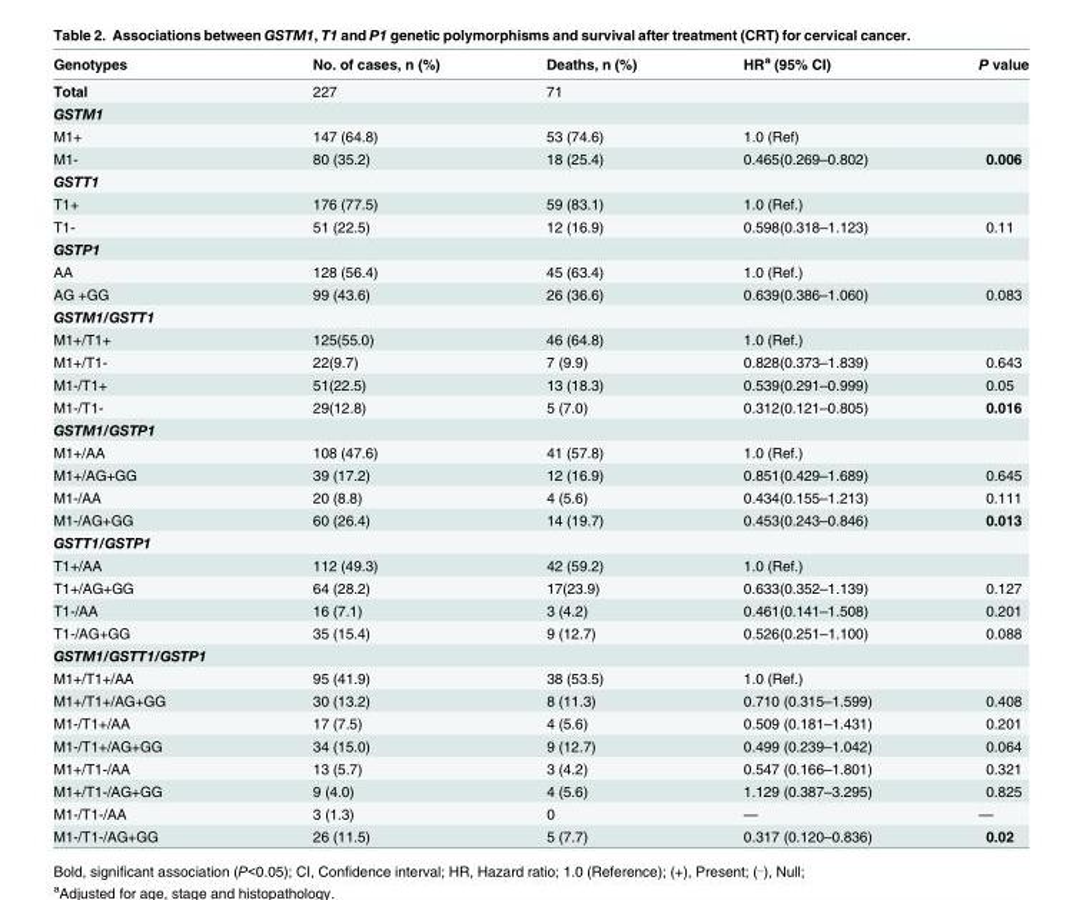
<table><thead><tr><td>Genotypes</td><td>No. of cases, n (%)</td><td>Deaths, n (%)</td><td>HR<sup>a</sup> (95% CI)</td><td>P value</td></tr></thead><tbody><tr><td>Total</td><td>227</td><td>71</td><td></td><td></td></tr><tr><td colspan="5">GSTM1</td></tr><tr><td>M1+</td><td>147 (64.8)</td><td>53 (74.6)</td><td>1.0 (Ref)</td><td></td></tr><tr><td>M1-</td><td>80 (35.2)</td><td>18 (25.4)</td><td>0.465(0.269–0.802)</td><td>0.006</td></tr><tr><td colspan="5">GSTT1</td></tr><tr><td>T1+</td><td>176 (77.5)</td><td>59 (83.1)</td><td>1.0 (Ref.)</td><td></td></tr><tr><td>T1-</td><td>51 (22.5)</td><td>12 (16.9)</td><td>0.598(0.318–1.123)</td><td>0.11</td></tr><tr><td colspan="5">GSTP1</td></tr><tr><td>AA</td><td>128 (56.4)</td><td>45 (63.4)</td><td>1.0 (Ref.)</td><td></td></tr><tr><td>AG +GG</td><td>99 (43.6)</td><td>26 (36.6)</td><td>0.639(0.386–1.060)</td><td>0.083</td></tr><tr><td colspan="5">GSTM1/GSTT1</td></tr><tr><td>M1+/T1+</td><td>125(55.0)</td><td>46 (64.8)</td><td>1.0 (Ref.)</td><td></td></tr><tr><td>M1+/T1-</td><td>22(9.7)</td><td>7 (9.9)</td><td>0.828(0.373–1.839)</td><td>0.643</td></tr><tr><td>M1-/T1+</td><td>51(22.5)</td><td>13 (18.3)</td><td>0.539(0.291–0.999)</td><td>0.05</td></tr><tr><td>M1-/T1-</td><td>29(12.8)</td><td>5 (7.0)</td><td>0.312(0.121–0.805)</td><td>0.016</td></tr><tr><td colspan="5">GSTM1/GSTP1</td></tr><tr><td>M1+/AA</td><td>108 (47.6)</td><td>41 (57.8)</td><td>1.0 (Ref.)</td><td></td></tr><tr><td>M1+/AG+GG</td><td>39 (17.2)</td><td>12 (16.9)</td><td>0.851(0.429–1.689)</td><td>0.645</td></tr><tr><td>M1-/AA</td><td>20 (8.8)</td><td>4 (5.6)</td><td>0.434(0.155–1.213)</td><td>0.111</td></tr><tr><td>M1-/AG+GG</td><td>60 (26.4)</td><td>14 (19.7)</td><td>0.453(0.243–0.846)</td><td>0.013</td></tr><tr><td colspan="5">GSTT1/GSTP1</td></tr><tr><td>T1+/AA</td><td>112 (49.3)</td><td>42 (59.2)</td><td>1.0 (Ref.)</td><td></td></tr><tr><td>T1+/AG+GG</td><td>64 (28.2)</td><td>17(23.9)</td><td>0.633(0.352–1.139)</td><td>0.127</td></tr><tr><td>T1-/AA</td><td>16 (7.1)</td><td>3 (4.2)</td><td>0.461(0.141–1.508)</td><td>0.201</td></tr><tr><td>T1-/AG+GG</td><td>35 (15.4)</td><td>9 (12.7)</td><td>0.526(0.251–1.100)</td><td>0.088</td></tr><tr><td colspan="5">GSTM1/GSTT1/GSTP1</td></tr><tr><td>M1+/T1+/AA</td><td>95 (41.9)</td><td>38 (53.5)</td><td>1.0 (Ref.)</td><td></td></tr><tr><td>M1+/T1+/AG+GG</td><td>30 (13.2)</td><td>8 (11.3)</td><td>0.710 (0.315–1.599)</td><td>0.408</td></tr><tr><td>M1-/T1+/AA</td><td>17 (7.5)</td><td>4 (5.6)</td><td>0.509 (0.181–1.431)</td><td>0.201</td></tr><tr><td>M1-/T1+/AG+GG</td><td>34 (15.0)</td><td>9 (12.7)</td><td>0.499 (0.239–1.042)</td><td>0.064</td></tr><tr><td>M1+/T1-/AA</td><td>13 (5.7)</td><td>3 (4.2)</td><td>0.547 (0.166–1.801)</td><td>0.321</td></tr><tr><td>M1+/T1-/AG+GG</td><td>9 (4.0)</td><td>4 (5.6)</td><td>1.129 (0.387–3.295)</td><td>0.825</td></tr><tr><td>M1-/T1-/AA</td><td>3 (1.3)</td><td>0</td><td>—</td><td>—</td></tr><tr><td>M1-/T1-/AG+GG</td><td>26 (11.5)</td><td>5 (7.7)</td><td>0.317 (0.120–0.836)</td><td>0.02</td></tr></tbody></table>